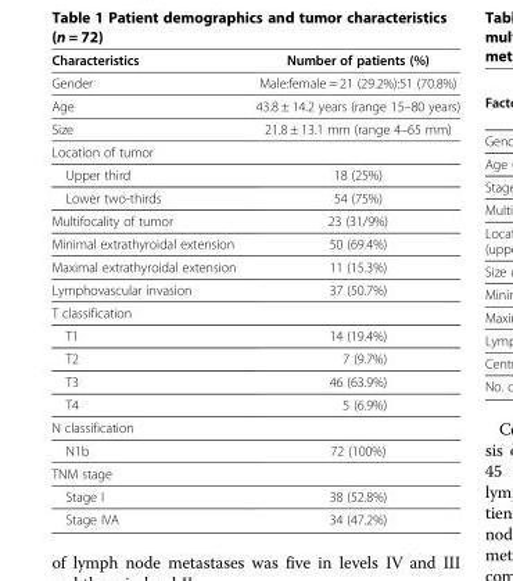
<table><thead><tr><td>Characteristics</td><td>Number of patients (%)</td></tr></thead><tbody><tr><td>Gender</td><td>Male:female = 21 (29.2%):51 (70.8%)</td></tr><tr><td>Age</td><td>43.8 ± 14.2 years (range 15–80 years)</td></tr><tr><td>Size</td><td>21.8 ± 13.1 mm (range 4–65 mm)</td></tr><tr><td colspan="2">Location of tumor</td></tr><tr><td>Upper third</td><td>18 (25%)</td></tr><tr><td>Lower two-thirds</td><td>54 (75%)</td></tr><tr><td>Multifocality of tumor</td><td>23 (31/9%)</td></tr><tr><td>Minimal extrathyroidal extension</td><td>50 (69.4%)</td></tr><tr><td>Maximal extrathyroidal extension</td><td>11 (15.3%)</td></tr><tr><td>Lymphovascular invasion</td><td>37 (50.7%)</td></tr><tr><td colspan="2">T classification</td></tr><tr><td>T1</td><td>14 (19.4%)</td></tr><tr><td>T2</td><td>7 (9.7%)</td></tr><tr><td>T3</td><td>46 (63.9%)</td></tr><tr><td>T4</td><td>5 (6.9%)</td></tr><tr><td colspan="2">N classification</td></tr><tr><td>N1b</td><td>72 (100%)</td></tr><tr><td colspan="2">TNM stage</td></tr><tr><td>Stage I</td><td>38 (52.8%)</td></tr><tr><td>Stage IVA</td><td>34 (47.2%)</td></tr></tbody></table>